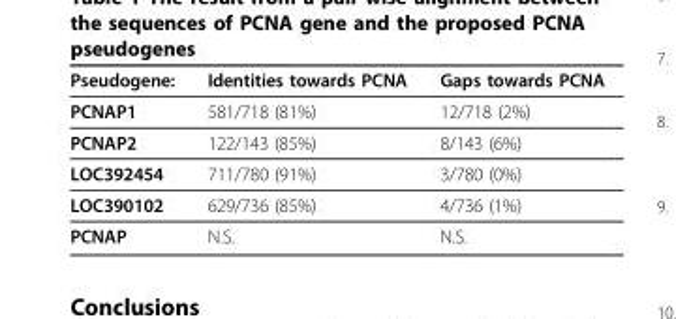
<table><thead><tr><td>Pseudogene:</td><td>Identities towards PCNA</td><td>Gaps towards PCNA</td></tr></thead><tbody><tr><td>PCNAP1</td><td>581/718 (81%)</td><td>12/718 (2%)</td></tr><tr><td>PCNAP2</td><td>122/143 (85%)</td><td>8/143 (6%)</td></tr><tr><td>LOC392454</td><td>711/780 (91%)</td><td>3/780 (0%)</td></tr><tr><td>LOC390102</td><td>629/736 (85%)</td><td>4/736 (1%)</td></tr><tr><td>PCNAP</td><td>N.S.</td><td>N.S.</td></tr></tbody></table>